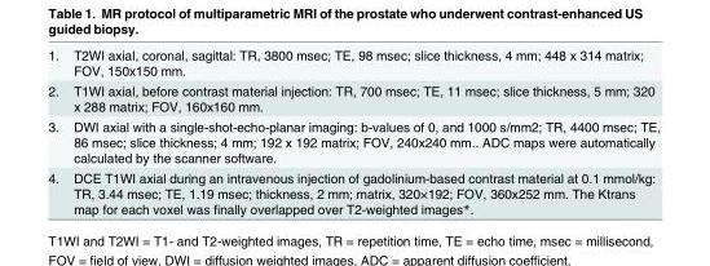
<table><tbody><tr><td>1.</td><td>T2WI axial, coronal, sagittal: TR, 3800 msec; TE, 98 msec; slice thickness, 4 mm; 448 x 314 matrix; FOV, 150x150 mm.</td></tr><tr><td>2.</td><td>T1WI axial, before contrast material injection: TR, 700 msec; TE, 11 msec; slice thickness, 5 mm; 320 x 288 matrix; FOV, 160x160 mm.</td></tr><tr><td>3.</td><td>DWI axial with a single-shot-echo-planar imaging: b-values of 0, and 1000 s/mm2; TR, 4400 msec; TE, 86 msec; slice thickness; 4 mm; 192 x 192 matrix; FOV, 240x240 mm.. ADC maps were automatically calculated by the scanner software.</td></tr><tr><td>4.</td><td>DCE T1WI axial during an intravenous injection of gadolinium-based contrast material at 0.1 mmol/kg: TR, 3.44 msec; TE, 1.19 msec; thickness, 2 mm; matrix, 320×192; FOV, 360x252 mm. The Ktrans map for each voxel was finally overlapped over T2-weighted images*.</td></tr></tbody></table>